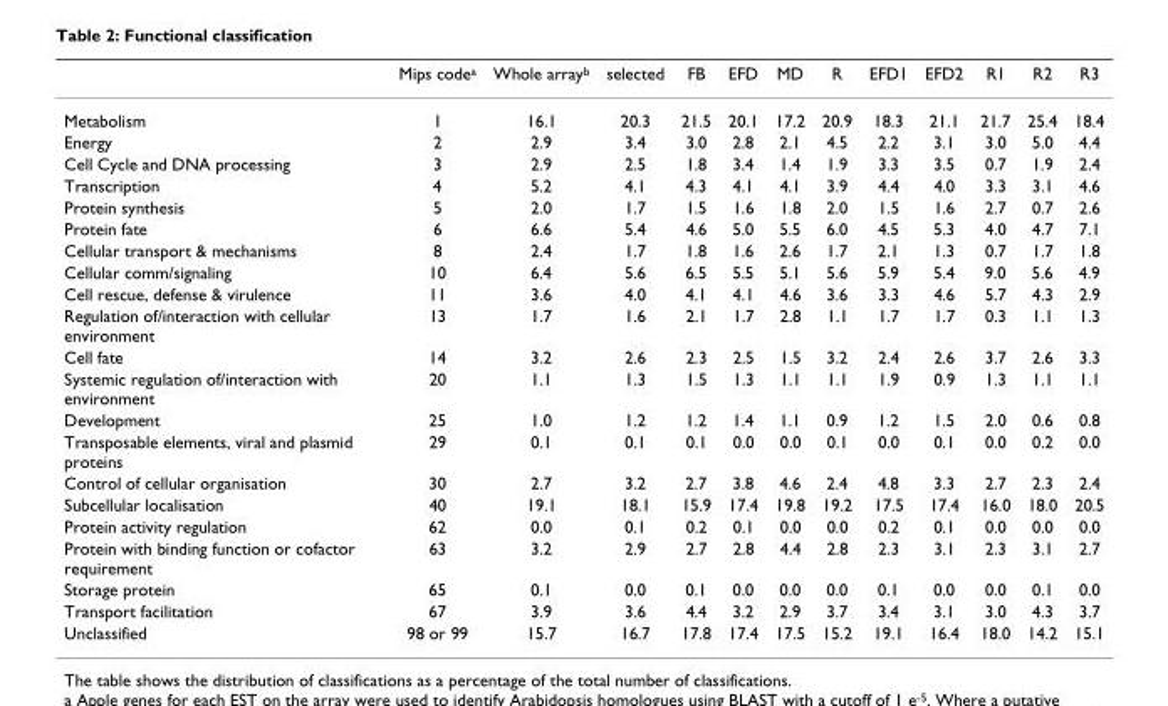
<table><thead><tr><td></td><td>Mips code<sup>a</sup></td><td>Whole array<sup>b</sup></td><td>selected</td><td>FB</td><td>EFD</td><td>MD</td><td>R</td><td>EFD1</td><td>EFD2</td><td>R1</td><td>R2</td><td>R3</td></tr></thead><tbody><tr><td>Metabolism</td><td>1</td><td>16.1</td><td>20.3</td><td>21.5</td><td>20.1</td><td>17.2</td><td>20.9</td><td>18.3</td><td>21.1</td><td>21.7</td><td>25.4</td><td>18.4</td></tr><tr><td>Energy</td><td>2</td><td>2.9</td><td>3.4</td><td>3.0</td><td>2.8</td><td>2.1</td><td>4.5</td><td>2.2</td><td>3.1</td><td>3.0</td><td>5.0</td><td>4.4</td></tr><tr><td>Cell Cycle and DNA processing</td><td>3</td><td>2.9</td><td>2.5</td><td>1.8</td><td>3.4</td><td>1.4</td><td>1.9</td><td>3.3</td><td>3.5</td><td>0.7</td><td>1.9</td><td>2.4</td></tr><tr><td>Transcription</td><td>4</td><td>5.2</td><td>4.1</td><td>4.3</td><td>4.1</td><td>4.1</td><td>3.9</td><td>4.4</td><td>4.0</td><td>3.3</td><td>3.1</td><td>4.6</td></tr><tr><td>Protein synthesis</td><td>5</td><td>2.0</td><td>1.7</td><td>1.5</td><td>1.6</td><td>1.8</td><td>2.0</td><td>1.5</td><td>1.6</td><td>2.7</td><td>0.7</td><td>2.6</td></tr><tr><td>Protein fate</td><td>6</td><td>6.6</td><td>5.4</td><td>4.6</td><td>5.0</td><td>5.5</td><td>6.0</td><td>4.5</td><td>5.3</td><td>4.0</td><td>4.7</td><td>7.1</td></tr><tr><td>Cellular transport &amp; mechanisms</td><td>8</td><td>2.4</td><td>1.7</td><td>1.8</td><td>1.6</td><td>2.6</td><td>1.7</td><td>2.1</td><td>1.3</td><td>0.7</td><td>1.7</td><td>1.8</td></tr><tr><td>Cellular comm/signaling</td><td>10</td><td>6.4</td><td>5.6</td><td>6.5</td><td>5.5</td><td>5.1</td><td>5.6</td><td>5.9</td><td>5.4</td><td>9.0</td><td>5.6</td><td>4.9</td></tr><tr><td>Cell rescue, defense &amp; virulence</td><td>11</td><td>3.6</td><td>4.0</td><td>4.1</td><td>4.1</td><td>4.6</td><td>3.6</td><td>3.3</td><td>4.6</td><td>5.7</td><td>4.3</td><td>2.9</td></tr><tr><td>Regulation of/interaction with cellular environment</td><td>13</td><td>1.7</td><td>1.6</td><td>2.1</td><td>1.7</td><td>2.8</td><td>1.1</td><td>1.7</td><td>1.7</td><td>0.3</td><td>1.1</td><td>1.3</td></tr><tr><td>Cell fate</td><td>14</td><td>3.2</td><td>2.6</td><td>2.3</td><td>2.5</td><td>1.5</td><td>3.2</td><td>2.4</td><td>2.6</td><td>3.7</td><td>2.6</td><td>3.3</td></tr><tr><td>Systemic regulation of/interaction with environment</td><td>20</td><td>1.1</td><td>1.3</td><td>1.5</td><td>1.3</td><td>1.1</td><td>1.1</td><td>1.9</td><td>0.9</td><td>1.3</td><td>1.1</td><td>1.1</td></tr><tr><td>Development</td><td>25</td><td>1.0</td><td>1.2</td><td>1.2</td><td>1.4</td><td>1.1</td><td>0.9</td><td>1.2</td><td>1.5</td><td>2.0</td><td>0.6</td><td>0.8</td></tr><tr><td>Transposable elements, viral and plasmid proteins</td><td>29</td><td>0.1</td><td>0.1</td><td>0.1</td><td>0.0</td><td>0.0</td><td>0.1</td><td>0.0</td><td>0.1</td><td>0.0</td><td>0.2</td><td>0.0</td></tr><tr><td>Control of cellular organisation</td><td>30</td><td>2.7</td><td>3.2</td><td>2.7</td><td>3.8</td><td>4.6</td><td>2.4</td><td>4.8</td><td>3.3</td><td>2.7</td><td>2.3</td><td>2.4</td></tr><tr><td>Subcellular localisation</td><td>40</td><td>19.1</td><td>18.1</td><td>15.9</td><td>17.4</td><td>19.8</td><td>19.2</td><td>17.5</td><td>17.4</td><td>16.0</td><td>18.0</td><td>20.5</td></tr><tr><td>Protein activity regulation</td><td>62</td><td>0.0</td><td>0.1</td><td>0.2</td><td>0.1</td><td>0.0</td><td>0.0</td><td>0.2</td><td>0.1</td><td>0.0</td><td>0.0</td><td>0.0</td></tr><tr><td>Protein with binding function or cofactor requirement</td><td>63</td><td>3.2</td><td>2.9</td><td>2.7</td><td>2.8</td><td>4.4</td><td>2.8</td><td>2.3</td><td>3.1</td><td>2.3</td><td>3.1</td><td>2.7</td></tr><tr><td>Storage protein</td><td>65</td><td>0.1</td><td>0.0</td><td>0.1</td><td>0.0</td><td>0.0</td><td>0.0</td><td>0.1</td><td>0.0</td><td>0.0</td><td>0.1</td><td>0.0</td></tr><tr><td>Transport facilitation</td><td>67</td><td>3.9</td><td>3.6</td><td>4.4</td><td>3.2</td><td>2.9</td><td>3.7</td><td>3.4</td><td>3.1</td><td>3.0</td><td>4.3</td><td>3.7</td></tr><tr><td>Unclassified</td><td>98 or 99</td><td>15.7</td><td>16.7</td><td>17.8</td><td>17.4</td><td>17.5</td><td>15.2</td><td>19.1</td><td>16.4</td><td>18.0</td><td>14.2</td><td>15.1</td></tr></tbody></table>